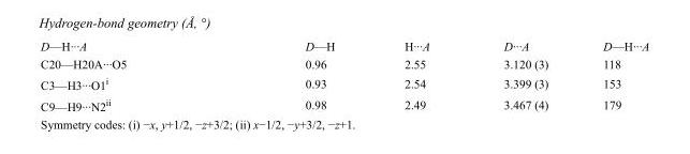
<table><tbody><tr><td>D—H···A</td><td>D—H</td><td>H···A</td><td>D···A</td><td>D—H···A</td></tr><tr><td>C20—H20A···O5</td><td>0.96</td><td>2.55</td><td>3.120 (3)</td><td>118</td></tr><tr><td>C3—H3···O1<sup>i</sup></td><td>0.93</td><td>2.54</td><td>3.399 (3)</td><td>153</td></tr><tr><td>C9—H9···N2<sup>ii</sup></td><td>0.98</td><td>2.49</td><td>3.467 (4)</td><td>179</td></tr></tbody></table>